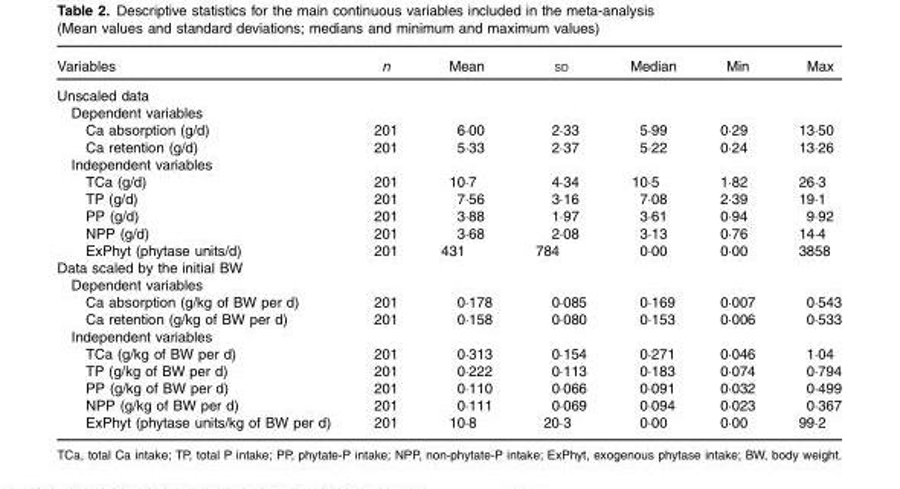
<table><thead><tr><td>Variables</td><td>n</td><td>Mean</td><td>SD</td><td>Median</td><td>Min</td><td>Max</td></tr></thead><tbody><tr><td colspan="7">Unscaled data</td></tr><tr><td colspan="7">Dependent variables</td></tr><tr><td>Ca absorption (g/d)</td><td>201</td><td>6·00</td><td>2·33</td><td>5·99</td><td>0·29</td><td>13·50</td></tr><tr><td>Ca retention (g/d)</td><td>201</td><td>5·33</td><td>2·37</td><td>5·22</td><td>0·24</td><td>13·26</td></tr><tr><td colspan="7">Independent variables</td></tr><tr><td>TCa (g/d)</td><td>201</td><td>10·7</td><td>4·34</td><td>10·5</td><td>1·82</td><td>26·3</td></tr><tr><td>TP (g/d)</td><td>201</td><td>7·56</td><td>3·16</td><td>7·08</td><td>2·39</td><td>19·1</td></tr><tr><td>PP (g/d)</td><td>201</td><td>3·88</td><td>1·97</td><td>3·61</td><td>0·94</td><td>9·92</td></tr><tr><td>NPP (g/d)</td><td>201</td><td>3·68</td><td>2·08</td><td>3·13</td><td>0·76</td><td>14·4</td></tr><tr><td>ExPhyt (phytase units/d)</td><td>201</td><td>431</td><td>784</td><td>0·00</td><td>0·00</td><td>3858</td></tr><tr><td colspan="7">Data scaled by the initial BW</td></tr><tr><td colspan="7">Dependent variables</td></tr><tr><td>Ca absorption (g/kg of BW per d)</td><td>201</td><td>0·178</td><td>0·085</td><td>0·169</td><td>0·007</td><td>0·543</td></tr><tr><td>Ca retention (g/kg of BW per d)</td><td>201</td><td>0·158</td><td>0·080</td><td>0·153</td><td>0·006</td><td>0·533</td></tr><tr><td colspan="7">Independent variables</td></tr><tr><td>TCa (g/kg of BW per d)</td><td>201</td><td>0·313</td><td>0·154</td><td>0·271</td><td>0·046</td><td>1·04</td></tr><tr><td>TP (g/kg of BW per d)</td><td>201</td><td>0·222</td><td>0·113</td><td>0·183</td><td>0·074</td><td>0·794</td></tr><tr><td>PP (g/kg of BW per d)</td><td>201</td><td>0·110</td><td>0·066</td><td>0·091</td><td>0·032</td><td>0·499</td></tr><tr><td>NPP (g/kg of BW per d)</td><td>201</td><td>0·111</td><td>0·069</td><td>0·094</td><td>0·023</td><td>0·367</td></tr><tr><td>ExPhyt (phytase units/kg of BW per d)</td><td>201</td><td>10·8</td><td>20·3</td><td>0·00</td><td>0·00</td><td>99·2</td></tr></tbody></table>